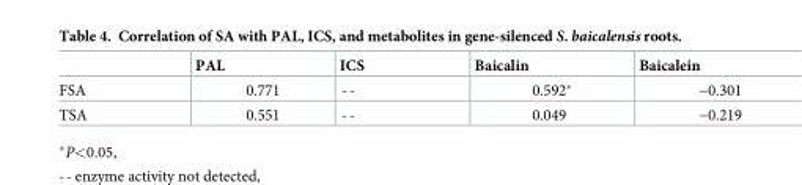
<table><thead><tr><td></td><td>PAL</td><td>ICS</td><td>Baicalin</td><td>Baicalein</td></tr></thead><tbody><tr><td>FSA</td><td>0.771</td><td>--</td><td>0.592*</td><td>−0.301</td></tr><tr><td>TSA</td><td>0.551</td><td>--</td><td>0.049</td><td>−0.219</td></tr></tbody></table>